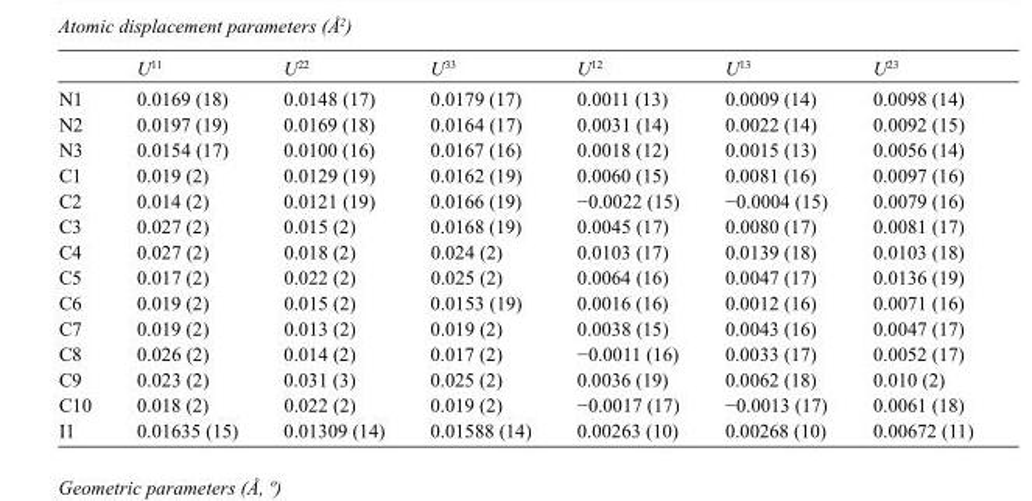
<table><thead><tr><td></td><td>U<sup>11</sup></td><td>U<sup>22</sup></td><td>U<sup>33</sup></td><td>U<sup>12</sup></td><td>U<sup>13</sup></td><td>U<sup>23</sup></td></tr></thead><tbody><tr><td>N1</td><td>0.0169 (18)</td><td>0.0148 (17)</td><td>0.0179 (17)</td><td>0.0011 (13)</td><td>0.0009 (14)</td><td>0.0098 (14)</td></tr><tr><td>N2</td><td>0.0197 (19)</td><td>0.0169 (18)</td><td>0.0164 (17)</td><td>0.0031 (14)</td><td>0.0022 (14)</td><td>0.0092 (15)</td></tr><tr><td>N3</td><td>0.0154 (17)</td><td>0.0100 (16)</td><td>0.0167 (16)</td><td>0.0018 (12)</td><td>0.0015 (13)</td><td>0.0056 (14)</td></tr><tr><td>C1</td><td>0.019 (2)</td><td>0.0129 (19)</td><td>0.0162 (19)</td><td>0.0060 (15)</td><td>0.0081 (16)</td><td>0.0097 (16)</td></tr><tr><td>C2</td><td>0.014 (2)</td><td>0.0121 (19)</td><td>0.0166 (19)</td><td>−0.0022 (15)</td><td>−0.0004 (15)</td><td>0.0079 (16)</td></tr><tr><td>C3</td><td>0.027 (2)</td><td>0.015 (2)</td><td>0.0168 (19)</td><td>0.0045 (17)</td><td>0.0080 (17)</td><td>0.0081 (17)</td></tr><tr><td>C4</td><td>0.027 (2)</td><td>0.018 (2)</td><td>0.024 (2)</td><td>0.0103 (17)</td><td>0.0139 (18)</td><td>0.0103 (18)</td></tr><tr><td>C5</td><td>0.017 (2)</td><td>0.022 (2)</td><td>0.025 (2)</td><td>0.0064 (16)</td><td>0.0047 (17)</td><td>0.0136 (19)</td></tr><tr><td>C6</td><td>0.019 (2)</td><td>0.015 (2)</td><td>0.0153 (19)</td><td>0.0016 (16)</td><td>0.0012 (16)</td><td>0.0071 (16)</td></tr><tr><td>C7</td><td>0.019 (2)</td><td>0.013 (2)</td><td>0.019 (2)</td><td>0.0038 (15)</td><td>0.0043 (16)</td><td>0.0047 (17)</td></tr><tr><td>C8</td><td>0.026 (2)</td><td>0.014 (2)</td><td>0.017 (2)</td><td>−0.0011 (16)</td><td>0.0033 (17)</td><td>0.0052 (17)</td></tr><tr><td>C9</td><td>0.023 (2)</td><td>0.031 (3)</td><td>0.025 (2)</td><td>0.0036 (19)</td><td>0.0062 (18)</td><td>0.010 (2)</td></tr><tr><td>C10</td><td>0.018 (2)</td><td>0.022 (2)</td><td>0.019 (2)</td><td>−0.0017 (17)</td><td>−0.0013 (17)</td><td>0.0061 (18)</td></tr><tr><td>I1</td><td>0.01635 (15)</td><td>0.01309 (14)</td><td>0.01588 (14)</td><td>0.00263 (10)</td><td>0.00268 (10)</td><td>0.00672 (11)</td></tr></tbody></table>